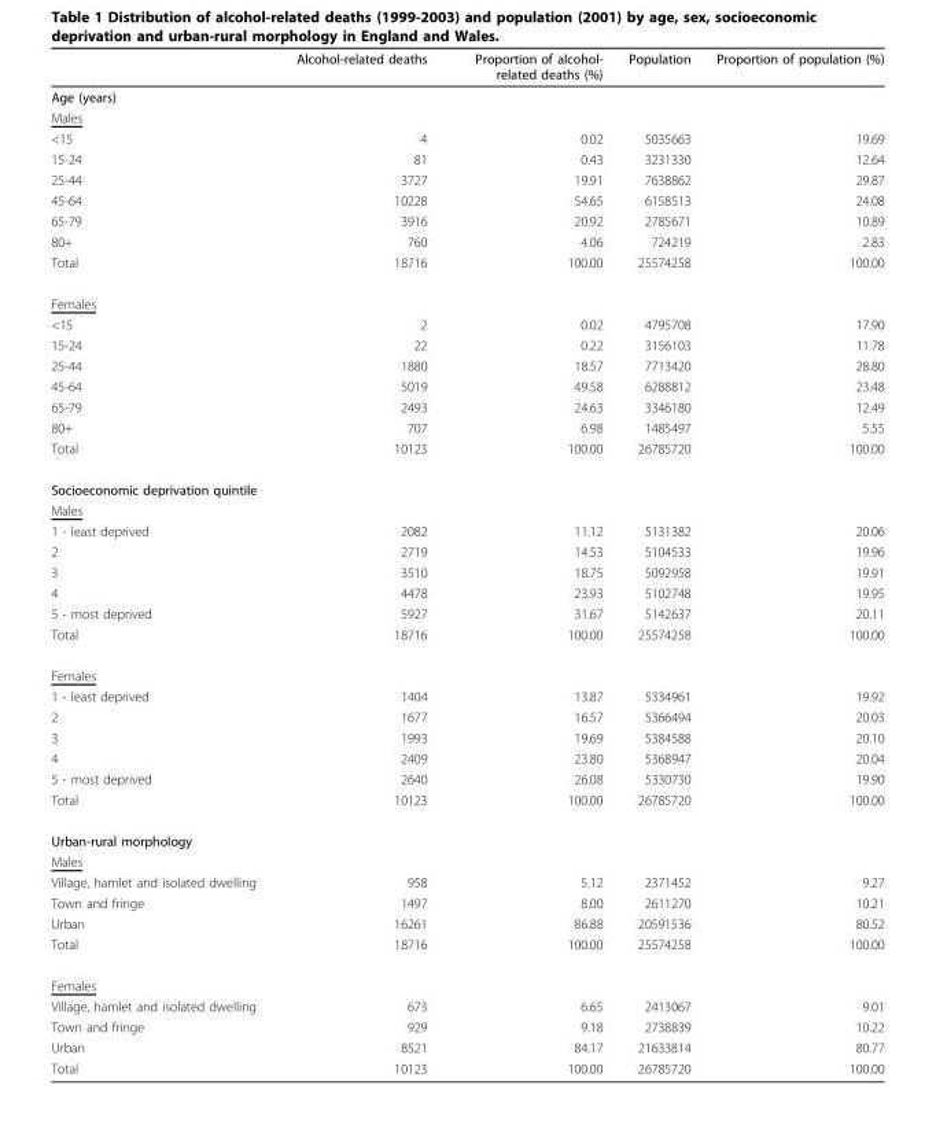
<table><thead><tr><td></td><td>Alcohol-related deaths</td><td>Proportion of alcohol- related deaths (%)</td><td>Population</td><td>Proportion of population (%)</td></tr></thead><tbody><tr><td colspan="5">Age (years)</td></tr><tr><td colspan="5">Males</td></tr><tr><td>&lt;15</td><td>4</td><td>0.02</td><td>5035663</td><td>19.69</td></tr><tr><td>15-24</td><td>81</td><td>0.43</td><td>3231330</td><td>12.64</td></tr><tr><td>25-44</td><td>3727</td><td>19.91</td><td>7638862</td><td>29.87</td></tr><tr><td>45-64</td><td>10228</td><td>54.65</td><td>6158513</td><td>24.08</td></tr><tr><td>65-79</td><td>3916</td><td>20.92</td><td>2785671</td><td>10.89</td></tr><tr><td>80+</td><td>760</td><td>4.06</td><td>724219</td><td>2.83</td></tr><tr><td>Total</td><td>18716</td><td>100.00</td><td>25574258</td><td>100.00</td></tr><tr><td colspan="5">Females</td></tr><tr><td>&lt;15</td><td>2</td><td>0.02</td><td>4795708</td><td>17.90</td></tr><tr><td>15-24</td><td>22</td><td>0.22</td><td>3156103</td><td>11.78</td></tr><tr><td>25-44</td><td>1880</td><td>18.57</td><td>7713420</td><td>28.80</td></tr><tr><td>45-64</td><td>5019</td><td>49.58</td><td>6288812</td><td>23.48</td></tr><tr><td>65-79</td><td>2493</td><td>24.63</td><td>3346180</td><td>12.49</td></tr><tr><td>80+</td><td>707</td><td>6.98</td><td>1485497</td><td>5.55</td></tr><tr><td>Total</td><td>10123</td><td>100.00</td><td>26785720</td><td>100.00</td></tr><tr><td colspan="5">Socioeconomic deprivation quintile</td></tr><tr><td colspan="5">Males</td></tr><tr><td>1 - least deprived</td><td>2082</td><td>11.12</td><td>5131382</td><td>20.06</td></tr><tr><td>2</td><td>2719</td><td>14.53</td><td>5104533</td><td>19.96</td></tr><tr><td>3</td><td>3510</td><td>18.75</td><td>5092958</td><td>19.91</td></tr><tr><td>4</td><td>4478</td><td>23.93</td><td>5102748</td><td>19.95</td></tr><tr><td>5 - most deprived</td><td>5927</td><td>31.67</td><td>5142637</td><td>20.11</td></tr><tr><td>Total</td><td>18716</td><td>100.00</td><td>25574258</td><td>100.00</td></tr><tr><td colspan="5">Females</td></tr><tr><td>1 - least deprived</td><td>1404</td><td>13.87</td><td>5334961</td><td>19.92</td></tr><tr><td>2</td><td>1677</td><td>16.57</td><td>5366494</td><td>20.03</td></tr><tr><td>3</td><td>1993</td><td>19.69</td><td>5384588</td><td>20.10</td></tr><tr><td>4</td><td>2409</td><td>23.80</td><td>5368947</td><td>20.04</td></tr><tr><td>5 - most deprived</td><td>2640</td><td>26.08</td><td>5330730</td><td>19.90</td></tr><tr><td>Total</td><td>10123</td><td>100.00</td><td>26785720</td><td>100.00</td></tr><tr><td colspan="5">Urban-rural morphology</td></tr><tr><td colspan="5">Males</td></tr><tr><td>Village, hamlet and isolated dwelling</td><td>958</td><td>5.12</td><td>2371452</td><td>9.27</td></tr><tr><td>Town and fringe</td><td>1497</td><td>8.00</td><td>2611270</td><td>10.21</td></tr><tr><td>Urban</td><td>16261</td><td>86.88</td><td>20591536</td><td>80.52</td></tr><tr><td>Total</td><td>18716</td><td>100.00</td><td>25574258</td><td>100.00</td></tr><tr><td colspan="5">Females</td></tr><tr><td>Village, hamlet and isolated dwelling</td><td>673</td><td>6.65</td><td>2413067</td><td>9.01</td></tr><tr><td>Town and fringe</td><td>929</td><td>9.18</td><td>2738839</td><td>10.22</td></tr><tr><td>Urban</td><td>8521</td><td>84.17</td><td>21633814</td><td>80.77</td></tr><tr><td>Total</td><td>10123</td><td>100.00</td><td>26785720</td><td>100.00</td></tr></tbody></table>